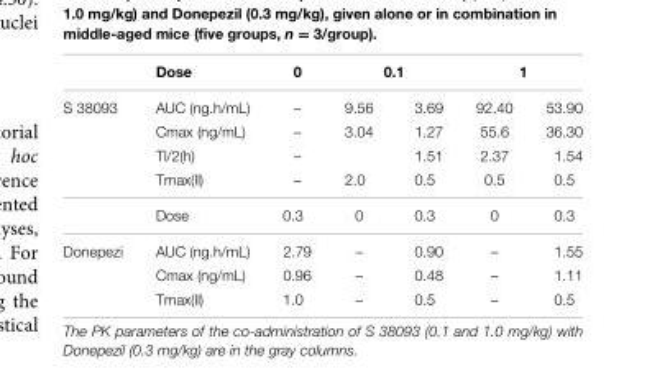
<table><thead><tr><td rowspan="2">S 38093</td><td rowspan="2">Dose AUC (ng.h/mL)</td><td rowspan="2">0 –</td><td colspan="2">0.1</td><td colspan="2">1</td></tr><tr><td>9.56</td><td>3.69</td><td>92.40</td><td>53.90</td></tr></thead><tbody><tr><td></td><td>Cmax (ng/mL)</td><td>–</td><td>3.04</td><td>1.27</td><td>55.6</td><td>36.30</td></tr><tr><td></td><td>Tl/2(h)</td><td>–</td><td></td><td>1.51</td><td>2.37</td><td>1.54</td></tr><tr><td></td><td>Tmax(ll)</td><td>–</td><td>2.0</td><td>0.5</td><td>0.5</td><td>0.5</td></tr><tr><td></td><td>Dose</td><td>0.3</td><td>0</td><td>0.3</td><td>0</td><td>0.3</td></tr><tr><td rowspan="3">Donepezi</td><td>AUC (ng.h/mL)</td><td>2.79</td><td>–</td><td>0.90</td><td>–</td><td>1.55</td></tr><tr><td>Cmax (ng/mL)</td><td>0.96</td><td>–</td><td>0.48</td><td>–</td><td>1.11</td></tr><tr><td>Tmax(ll)</td><td>1.0</td><td>–</td><td>0.5</td><td>–</td><td>0.5</td></tr></tbody></table>